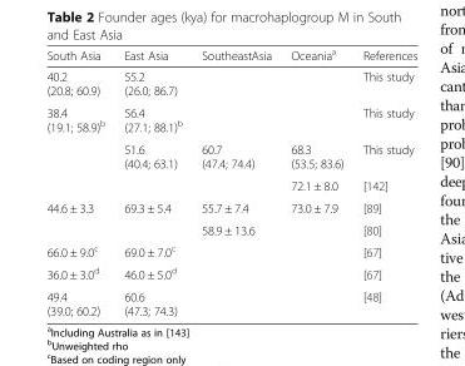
<table><thead><tr><td>South Asia</td><td>East Asia</td><td>SoutheastAsia</td><td>Oceania<sup>a</sup></td><td>References</td></tr></thead><tbody><tr><td>40.2 (20.8; 60.9)</td><td>55.2 (26.0; 86.7)</td><td></td><td></td><td>This study</td></tr><tr><td rowspan="3">38.4 (19.1; 58.9)<sup>b</sup></td><td>56.4 (27.1; 88.1)<sup>b</sup></td><td></td><td></td><td>This study</td></tr><tr><td>51.6 (40.4; 63.1)</td><td>60.7 (47.4; 74.4)</td><td>68.3 (53.5; 83.6)</td><td>This study</td></tr><tr><td></td><td></td><td>72.1 ± 8.0</td><td>[142]</td></tr><tr><td rowspan="2">44.6 ± 3.3</td><td>69.3 ± 5.4</td><td>55.7 ± 7.4</td><td>73.0 ± 7.9</td><td>[89]</td></tr><tr><td></td><td>58.9 ± 13.6</td><td></td><td>[80]</td></tr><tr><td>66.0 ± 9.0<sup>c</sup></td><td>69.0 ± 7.0<sup>c</sup></td><td></td><td></td><td>[67]</td></tr><tr><td>36.0 ± 3.0<sup>d</sup></td><td>46.0 ± 5.0<sup>d</sup></td><td></td><td></td><td>[67]</td></tr><tr><td>49.4 (39.0; 60.2)</td><td>60.6 (47.3; 74.3)</td><td></td><td></td><td>[48]</td></tr></tbody></table>